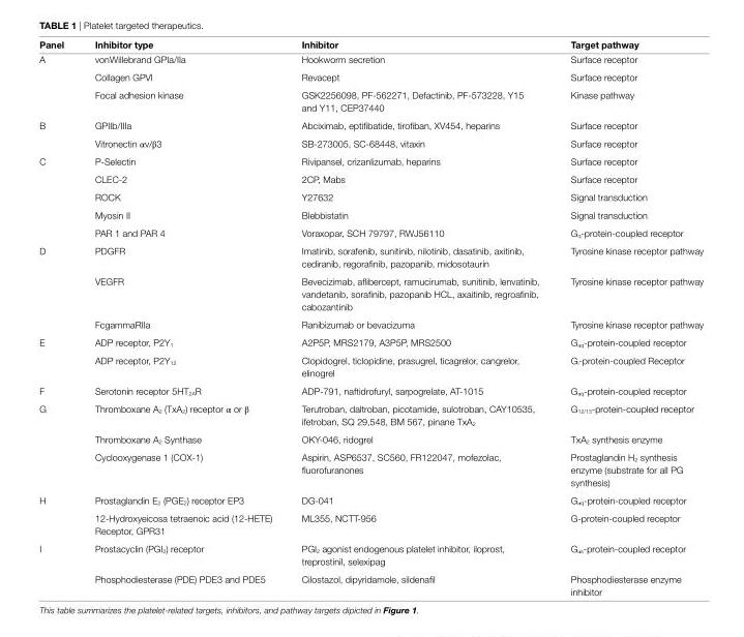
<table><thead><tr><td>Panel</td><td>inhibitor type</td><td>inhibitor</td><td>Target pathway</td></tr></thead><tbody><tr><td rowspan="3">A</td><td>vonWillebrand GPIa/IIa</td><td>Hookworm secretion</td><td>Surface receptor</td></tr><tr><td>Collagen GPVI</td><td>Revacept</td><td>Surface receptor</td></tr><tr><td>Focal adhesion kinase</td><td>GSK2256098, PF-562271, Defactinib, PF-573228, Y15 and Y11, CEP37440</td><td>Kinase pathway</td></tr><tr><td rowspan="2">B</td><td>GPIIb/IIIa</td><td>Abciximab, eptifibatide, tirofiban, XV454, heparins</td><td>Surface receptor</td></tr><tr><td>Vitronectin αv/β3</td><td>SB-273005, SC-68448, vitaxin</td><td>Surface receptor</td></tr><tr><td rowspan="5">C</td><td>P-Selectin</td><td>Rivipansel, crizanlizumab, heparins</td><td>Surface receptor</td></tr><tr><td>CLEC-2</td><td>2CP, Mabs</td><td>Surface receptor</td></tr><tr><td>ROCK</td><td>Y27632</td><td>Signal transduction</td></tr><tr><td>Myosin II</td><td>Blebbistatin</td><td>Signal transduction</td></tr><tr><td>PAR 1 and PAR 4</td><td>Voraxopar, SCH 79797, RWJ56110</td><td>G<sub>q</sub>-protein-coupled receptor</td></tr><tr><td rowspan="3">D</td><td>PDGFR</td><td>Imatinib, sorafenib, sunitinib, nilotinib, dasatinib, axitinib, cediranib, regorafinib, pazopanib, midosotaurin</td><td>Tyrosine kinase receptor pathway</td></tr><tr><td>VEGFR</td><td>Bevecizimab, aflibercept, ramucirumab, sunitinib, lenvatinib, vandetanib, sorafinib, pazopanib HCL, axaitinib, regroafinib, cabozantinib</td><td>Tyrosine kinase receptor pathway</td></tr><tr><td>FcgammaRIIa</td><td>Ranibizumab or bevacizuma</td><td>Tyrosine kinase receptor pathway</td></tr><tr><td rowspan="2">E</td><td>ADP receptor, P2Y<sub>1</sub></td><td>A2P5P, MRS2179, A3P5P, MRS2500</td><td>G<sub>αq</sub>-protein-coupled receptor</td></tr><tr><td>ADP receptor, P2Y<sub>12</sub></td><td>Clopidogrel, ticlopidine, prasugrel, ticagrelor, cangrelor, elinogrel</td><td>G<sub>i</sub>-protein-coupled Receptor</td></tr><tr><td>F</td><td>Serotonin receptor 5HT<sub>2A</sub>R</td><td>ADP-791, naftidrofuryl, sarpogrelate, AT-1015</td><td>G<sub>αq</sub>-protein-coupled receptor</td></tr><tr><td rowspan="3">G</td><td>Thromboxane A<sub>2</sub> (TxA<sub>2</sub>) receptor α or β</td><td>Terutroban, daltroban, picotamide, sulotroban, CAY10535, ifetroban, SQ 29,548, BM 567, pinane TxA<sub>2</sub></td><td>G<sub>12/13</sub>-protein-coupled receptor</td></tr><tr><td>Thromboxane A<sub>2</sub> Synthase</td><td>OKY-046, ridogrel</td><td>TxA<sub>2</sub> synthesis enzyme</td></tr><tr><td>Cyclooxygenase 1 (COX-1)</td><td>Aspirin, ASP6537, SC560, FR122047, mofezolac, fluorofuranones</td><td>Prostaglandin H<sub>2</sub> synthesis enzyme (substrate for all PG synthesis)</td></tr><tr><td rowspan="2">H</td><td>Prostaglandin E<sub>2</sub> (PGE<sub>2</sub>) receptor EP3</td><td>DG-041</td><td>G<sub>αq</sub>-protein-coupled receptor</td></tr><tr><td>12-Hydroxyeicosa tetraenoic acid (12-HETE) Receptor, GPR31</td><td>ML355, NCTT-956</td><td>G-protein-coupled receptor</td></tr><tr><td rowspan="2">I</td><td>Prostacyclin (PGI<sub>2</sub>) receptor</td><td>PGI<sub>2</sub> agonist endogenous platelet inhibitor, iloprost, treprostinil, selexipag</td><td>G<sub>αs</sub>-protein-coupled receptor</td></tr><tr><td>Phosphodiesterase (PDE) PDE3 and PDE5</td><td>Cilostazol, dipyridamole, sildenafil</td><td>Phosphodiesterase enzyme inhibitor</td></tr></tbody></table>